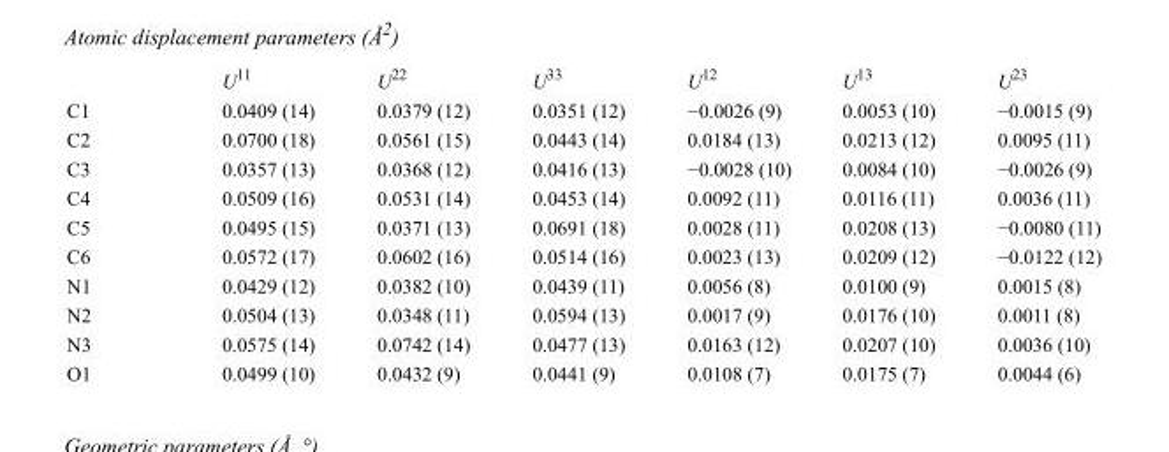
<table><thead><tr><td></td><td>U<sup>11</sup></td><td>U<sup>22</sup></td><td>U<sup>33</sup></td><td>U<sup>12</sup></td><td>U<sup>13</sup></td><td>U<sup>23</sup></td></tr></thead><tbody><tr><td>C1</td><td>0.0409 (14)</td><td>0.0379 (12)</td><td>0.0351 (12)</td><td>−0.0026 (9)</td><td>0.0053 (10)</td><td>−0.0015 (9)</td></tr><tr><td>C2</td><td>0.0700 (18)</td><td>0.0561 (15)</td><td>0.0443 (14)</td><td>0.0184 (13)</td><td>0.0213 (12)</td><td>0.0095 (11)</td></tr><tr><td>C3</td><td>0.0357 (13)</td><td>0.0368 (12)</td><td>0.0416 (13)</td><td>−0.0028 (10)</td><td>0.0084 (10)</td><td>−0.0026 (9)</td></tr><tr><td>C4</td><td>0.0509 (16)</td><td>0.0531 (14)</td><td>0.0453 (14)</td><td>0.0092 (11)</td><td>0.0116 (11)</td><td>0.0036 (11)</td></tr><tr><td>C5</td><td>0.0495 (15)</td><td>0.0371 (13)</td><td>0.0691 (18)</td><td>0.0028 (11)</td><td>0.0208 (13)</td><td>−0.0080 (11)</td></tr><tr><td>C6</td><td>0.0572 (17)</td><td>0.0602 (16)</td><td>0.0514 (16)</td><td>0.0023 (13)</td><td>0.0209 (12)</td><td>−0.0122 (12)</td></tr><tr><td>N1</td><td>0.0429 (12)</td><td>0.0382 (10)</td><td>0.0439 (11)</td><td>0.0056 (8)</td><td>0.0100 (9)</td><td>0.0015 (8)</td></tr><tr><td>N2</td><td>0.0504 (13)</td><td>0.0348 (11)</td><td>0.0594 (13)</td><td>0.0017 (9)</td><td>0.0176 (10)</td><td>0.0011 (8)</td></tr><tr><td>N3</td><td>0.0575 (14)</td><td>0.0742 (14)</td><td>0.0477 (13)</td><td>0.0163 (12)</td><td>0.0207 (10)</td><td>0.0036 (10)</td></tr><tr><td>O1</td><td>0.0499 (10)</td><td>0.0432 (9)</td><td>0.0441 (9)</td><td>0.0108 (7)</td><td>0.0175 (7)</td><td>0.0044 (6)</td></tr></tbody></table>